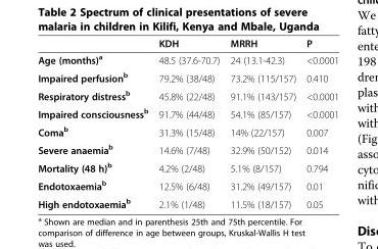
<table><thead><tr><td></td><td>KDH</td><td>MRRH</td><td>P</td></tr></thead><tbody><tr><td>Age (months)<sup>a</sup></td><td>48.5 (37.6-70.7)</td><td>24 (13.1-42.3)</td><td>&lt;0.0001</td></tr><tr><td>Impaired perfusion<sup>b</sup></td><td>79.2% (38/48)</td><td>73.2% (115/157)</td><td>0.410</td></tr><tr><td>Respiratory distress<sup>b</sup></td><td>45.8% (22/48)</td><td>91.1% (143/157)</td><td>&lt;0.0001</td></tr><tr><td>Impaired consciousness<sup>b</sup></td><td>91.7% (44/48)</td><td>54.1% (85/157)</td><td>&lt;0.0001</td></tr><tr><td>Coma<sup>b</sup></td><td>31.3% (15/48)</td><td>14% (22/157)</td><td>0.007</td></tr><tr><td>Severe anaemia<sup>b</sup></td><td>14.6% (7/48)</td><td>32.9% (50/152)</td><td>0.014</td></tr><tr><td>Mortality (48 h)<sup>b</sup></td><td>4.2% (2/48)</td><td>5.1% (8/157)</td><td>0.794</td></tr><tr><td>Endotoxaemia<sup>b</sup></td><td>12.5% (6/48)</td><td>31.2% (49/157)</td><td>0.01</td></tr><tr><td>High endotoxaemia<sup>b</sup></td><td>2.1% (1/48)</td><td>11.5% (18/157)</td><td>0.05</td></tr></tbody></table>